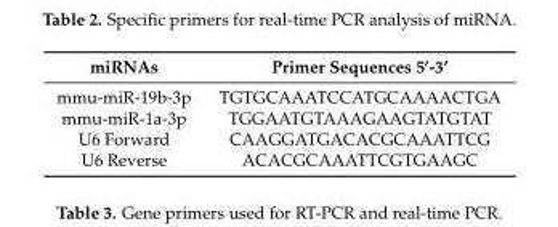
<table><thead><tr><td>miRNAs</td><td>Primer Sequences 5’-3’</td></tr></thead><tbody><tr><td>mmu-miR-19b-3p</td><td>TGTGCAAATCCATGCAAAACTGA</td></tr><tr><td>mmu-miR-1a-3p</td><td>TGGAATGTAAAGAAGTATGTAT</td></tr><tr><td>U6 Forward</td><td>CAAGGATGACACGCAAATTCG</td></tr><tr><td>U6 Reverse</td><td>ACACGCAAATTCGTGAAGC</td></tr></tbody></table>